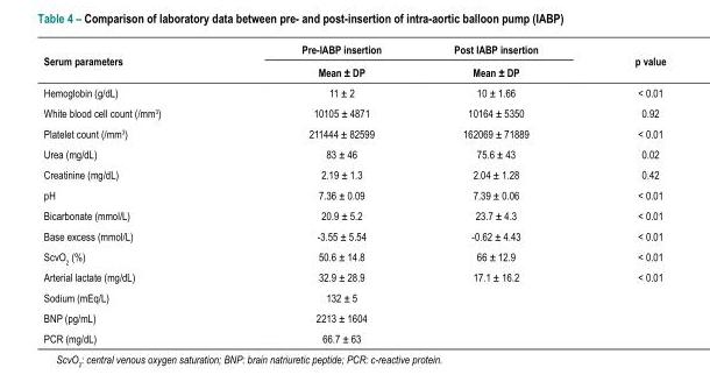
<table><thead><tr><td rowspan="2">Serum parameters</td><td rowspan="2">Pre-IABP insertion Mean ± DP</td><td rowspan="2">Post IABP insertion Mean ± DP</td><td rowspan="2">p value</td></tr><tr></tr></thead><tbody><tr><td>Hemoglobin (g/dL)</td><td>11 ± 2</td><td>10 ± 1.66</td><td>&lt; 0.01</td></tr><tr><td>White blood cell count (/mm<sup>3</sup>)</td><td>10105 ± 4871</td><td>10164 ± 5350</td><td>0.92</td></tr><tr><td>Platelet count (/mm<sup>3</sup>)</td><td>211444 ± 82599</td><td>162069 ± 71889</td><td>&lt; 0.01</td></tr><tr><td>Urea (mg/dL)</td><td>83 ± 46</td><td>75.6 ± 43</td><td>0.02</td></tr><tr><td>Creatinine (mg/dL)</td><td>2.19 ± 1.3</td><td>2.04 ± 1.28</td><td>0.42</td></tr><tr><td>pH</td><td>7.36 ± 0.09</td><td>7.39 ± 0.06</td><td>&lt; 0.01</td></tr><tr><td>Bicarbonate (mmol/L)</td><td>20.9 ± 5.2</td><td>23.7 ± 4.3</td><td>&lt; 0.01</td></tr><tr><td>Base excess (mmol/L)</td><td>-3.55 ± 5.54</td><td>-0.62 ± 4.43</td><td>&lt; 0.01</td></tr><tr><td>ScvO<sub>2</sub> (%)</td><td>50.6 ± 14.8</td><td>66 ± 12.9</td><td>&lt; 0.01</td></tr><tr><td>Arterial lactate (mg/dL)</td><td>32.9 ± 28.9</td><td>17.1 ± 16.2</td><td>&lt; 0.01</td></tr><tr><td>Sodium (mEq/L)</td><td>132 ± 5</td><td></td><td></td></tr><tr><td>BNP (pg/mL)</td><td>2213 ± 1604</td><td></td><td></td></tr><tr><td>PCR (mg/dL)</td><td>66.7 ± 63</td><td></td><td></td></tr></tbody></table>